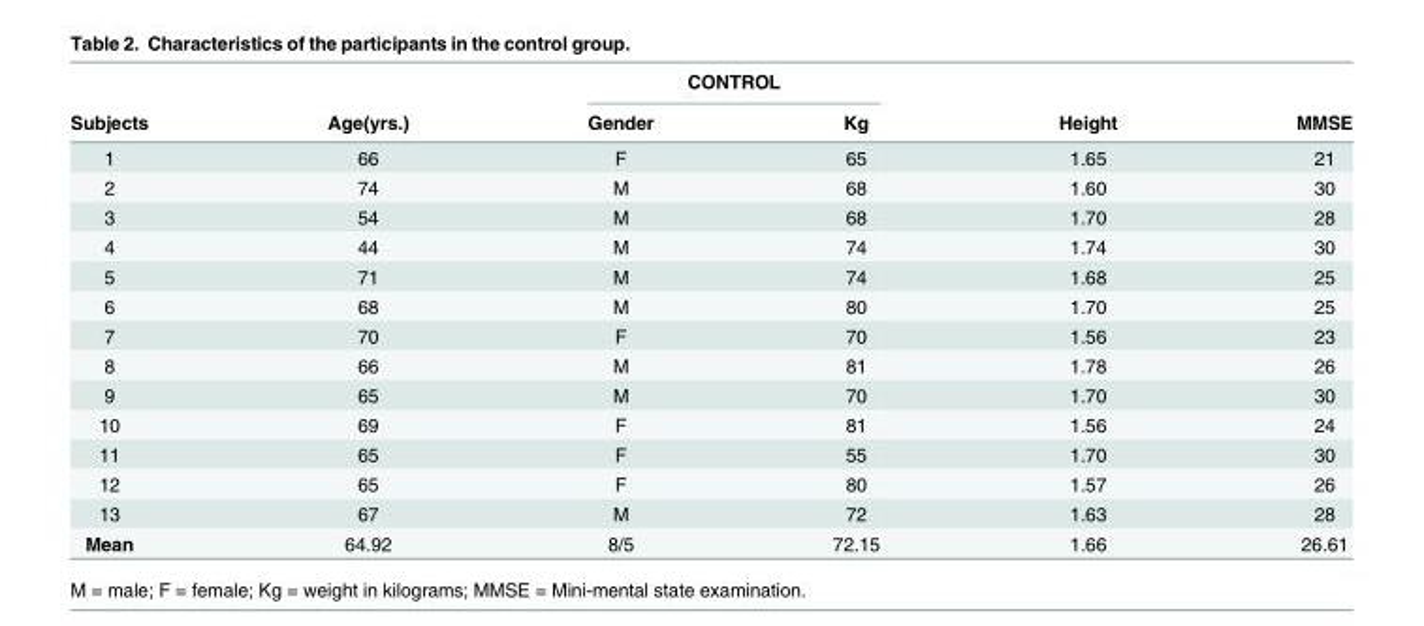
<table><thead><tr><td rowspan="2">Subjects</td><td rowspan="2">Age(yrs.)</td><td colspan="2">CONTROL</td><td rowspan="2">Height</td><td rowspan="2">MMSE</td></tr><tr><td>Gender</td><td>Kg</td></tr></thead><tbody><tr><td>1</td><td>66</td><td>F</td><td>65</td><td>1.65</td><td>21</td></tr><tr><td>2</td><td>74</td><td>M</td><td>68</td><td>1.60</td><td>30</td></tr><tr><td>3</td><td>54</td><td>M</td><td>68</td><td>1.70</td><td>28</td></tr><tr><td>4</td><td>44</td><td>M</td><td>74</td><td>1.74</td><td>30</td></tr><tr><td>5</td><td>71</td><td>M</td><td>74</td><td>1.68</td><td>25</td></tr><tr><td>6</td><td>68</td><td>M</td><td>80</td><td>1.70</td><td>25</td></tr><tr><td>7</td><td>70</td><td>F</td><td>70</td><td>1.56</td><td>23</td></tr><tr><td>8</td><td>66</td><td>M</td><td>81</td><td>1.78</td><td>26</td></tr><tr><td>9</td><td>65</td><td>M</td><td>70</td><td>1.70</td><td>30</td></tr><tr><td>10</td><td>69</td><td>F</td><td>81</td><td>1.56</td><td>24</td></tr><tr><td>11</td><td>65</td><td>F</td><td>55</td><td>1.70</td><td>30</td></tr><tr><td>12</td><td>65</td><td>F</td><td>80</td><td>1.57</td><td>26</td></tr><tr><td>13</td><td>67</td><td>M</td><td>72</td><td>1.63</td><td>28</td></tr><tr><td>Mean</td><td>64.92</td><td>8/5</td><td>72.15</td><td>1.66</td><td>26.61</td></tr></tbody></table>